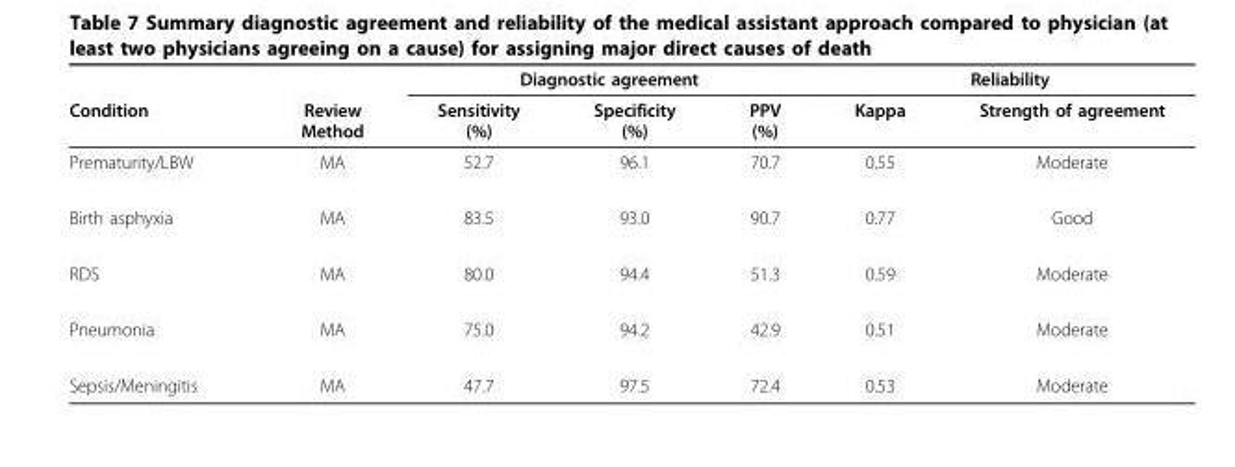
<table><thead><tr><td rowspan="2">Condition</td><td rowspan="2">Review Method</td><td colspan="3">Diagnostic agreement</td><td colspan="2">Reliability</td></tr><tr><td>Sensitivity (%)</td><td>Specificity (%)</td><td>PPV (%)</td><td>Kappa</td><td>Strength of agreement</td></tr></thead><tbody><tr><td>Prematurity/LBW</td><td>MA</td><td>52.7</td><td>96.1</td><td>70.7</td><td>0.55</td><td>Moderate</td></tr><tr><td>Birth asphyxia</td><td>MA</td><td>83.5</td><td>93.0</td><td>90.7</td><td>0.77</td><td>Good</td></tr><tr><td>RDS</td><td>MA</td><td>80.0</td><td>94.4</td><td>51.3</td><td>0.59</td><td>Moderate</td></tr><tr><td>Pneumonia</td><td>MA</td><td>75.0</td><td>94.2</td><td>42.9</td><td>0.51</td><td>Moderate</td></tr><tr><td>Sepsis/Meningitis</td><td>MA</td><td>47.7</td><td>97.5</td><td>72.4</td><td>0.53</td><td>Moderate</td></tr></tbody></table>